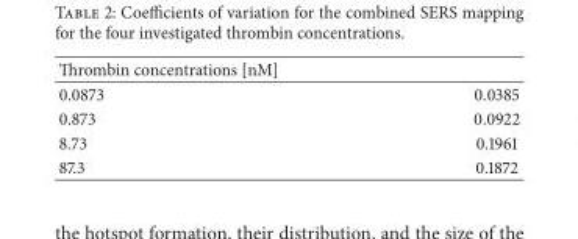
<table><thead><tr><td>Thrombin concentrations [nM]</td><td></td></tr></thead><tbody><tr><td>0.0873</td><td>0.0385</td></tr><tr><td>0.873</td><td>0.0922</td></tr><tr><td>8.73</td><td>0.1961</td></tr><tr><td>87.3</td><td>0.1872</td></tr></tbody></table>